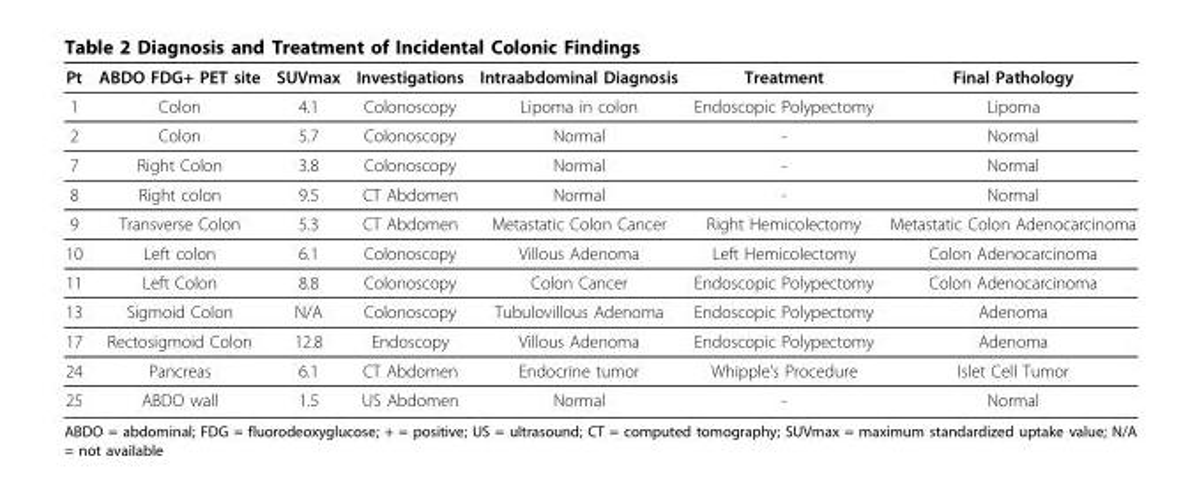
<table><thead><tr><td>Pt</td><td>ABDO FDG+ PET site</td><td>SUVmax</td><td>Investigations</td><td>Intraabdominal Diagnosis</td><td>Treatment</td><td>Final Pathology</td></tr></thead><tbody><tr><td>1</td><td>Colon</td><td>4.1</td><td>Colonoscopy</td><td>Lipoma in colon</td><td>Endoscopic Polypectomy</td><td>Lipoma</td></tr><tr><td>2</td><td>Colon</td><td>5.7</td><td>Colonoscopy</td><td>Normal</td><td>-</td><td>Normal</td></tr><tr><td>7</td><td>Right Colon</td><td>3.8</td><td>Colonoscopy</td><td>Normal</td><td>-</td><td>Normal</td></tr><tr><td>8</td><td>Right colon</td><td>9.5</td><td>CT Abdomen</td><td>Normal</td><td>-</td><td>Normal</td></tr><tr><td>9</td><td>Transverse Colon</td><td>5.3</td><td>CT Abdomen</td><td>Metastatic Colon Cancer</td><td>Right Hemicolectomy</td><td>Metastatic Colon Adenocarcinoma</td></tr><tr><td>10</td><td>Left colon</td><td>6.1</td><td>Colonoscopy</td><td>Villous Adenoma</td><td>Left Hemicolectomy</td><td>Colon Adenocarcinoma</td></tr><tr><td>11</td><td>Left Colon</td><td>8.8</td><td>Colonoscopy</td><td>Colon Cancer</td><td>Endoscopic Polypectomy</td><td>Colon Adenocarcinoma</td></tr><tr><td>13</td><td>Sigmoid Colon</td><td>N/A</td><td>Colonoscopy</td><td>Tubulovillous Adenoma</td><td>Endoscopic Polypectomy</td><td>Adenoma</td></tr><tr><td>17</td><td>Rectosigmoid Colon</td><td>12.8</td><td>Endoscopy</td><td>Villous Adenoma</td><td>Endoscopic Polypectomy</td><td>Adenoma</td></tr><tr><td>24</td><td>Pancreas</td><td>6.1</td><td>CT Abdomen</td><td>Endocrine tumor</td><td>Whipple’s Procedure</td><td>Islet Cell Tumor</td></tr><tr><td>25</td><td>ABDO wall</td><td>1.5</td><td>US Abdomen</td><td>Normal</td><td>-</td><td>Normal</td></tr></tbody></table>